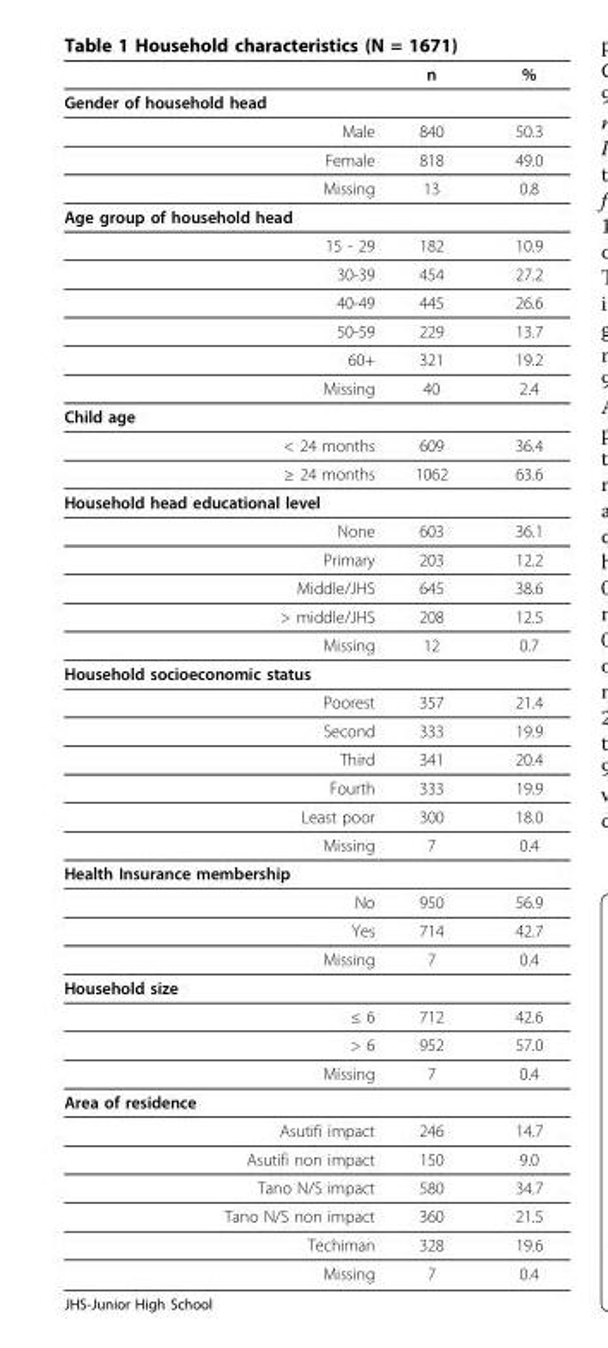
<table><thead><tr><td></td><td>n</td><td>%</td></tr></thead><tbody><tr><td colspan="3">Gender of household head</td></tr><tr><td>Male</td><td>840</td><td>50.3</td></tr><tr><td>Female</td><td>818</td><td>49.0</td></tr><tr><td>Missing</td><td>13</td><td>0.8</td></tr><tr><td colspan="3">Age group of household head</td></tr><tr><td>15 - 29</td><td>182</td><td>10.9</td></tr><tr><td>30-39</td><td>454</td><td>27.2</td></tr><tr><td>40-49</td><td>445</td><td>26.6</td></tr><tr><td>50-59</td><td>229</td><td>13.7</td></tr><tr><td>60+</td><td>321</td><td>19.2</td></tr><tr><td>Missing</td><td>40</td><td>2.4</td></tr><tr><td colspan="3">Child age</td></tr><tr><td>&lt; 24 months</td><td>609</td><td>36.4</td></tr><tr><td>≥ 24 months</td><td>1062</td><td>63.6</td></tr><tr><td colspan="3">Household head educational level</td></tr><tr><td>None</td><td>603</td><td>36.1</td></tr><tr><td>Primary</td><td>203</td><td>12.2</td></tr><tr><td>Middle/JHS</td><td>645</td><td>38.6</td></tr><tr><td>&gt; middle/JHS</td><td>208</td><td>12.5</td></tr><tr><td>Missing</td><td>12</td><td>0.7</td></tr><tr><td colspan="3">Household socioeconomic status</td></tr><tr><td>Poorest</td><td>357</td><td>21.4</td></tr><tr><td>Second</td><td>333</td><td>19.9</td></tr><tr><td>Third</td><td>341</td><td>20.4</td></tr><tr><td>Fourth</td><td>333</td><td>19.9</td></tr><tr><td>Least poor</td><td>300</td><td>18.0</td></tr><tr><td>Missing</td><td>7</td><td>0.4</td></tr><tr><td colspan="3">Health Insurance membership</td></tr><tr><td>No</td><td>950</td><td>56.9</td></tr><tr><td>Yes</td><td>714</td><td>42.7</td></tr><tr><td>Missing</td><td>7</td><td>0.4</td></tr><tr><td colspan="3">Household size</td></tr><tr><td>≤ 6</td><td>712</td><td>42.6</td></tr><tr><td>&gt; 6</td><td>952</td><td>57.0</td></tr><tr><td>Missing</td><td>7</td><td>0.4</td></tr><tr><td colspan="3">Area of residence</td></tr><tr><td>Asutifi impact</td><td>246</td><td>14.7</td></tr><tr><td>Asutifi non impact</td><td>150</td><td>9.0</td></tr><tr><td>Tano N/S impact</td><td>580</td><td>34.7</td></tr><tr><td>Tano N/S non impact</td><td>360</td><td>21.5</td></tr><tr><td>Techiman</td><td>328</td><td>19.6</td></tr><tr><td>Missing</td><td>7</td><td>0.4</td></tr></tbody></table>